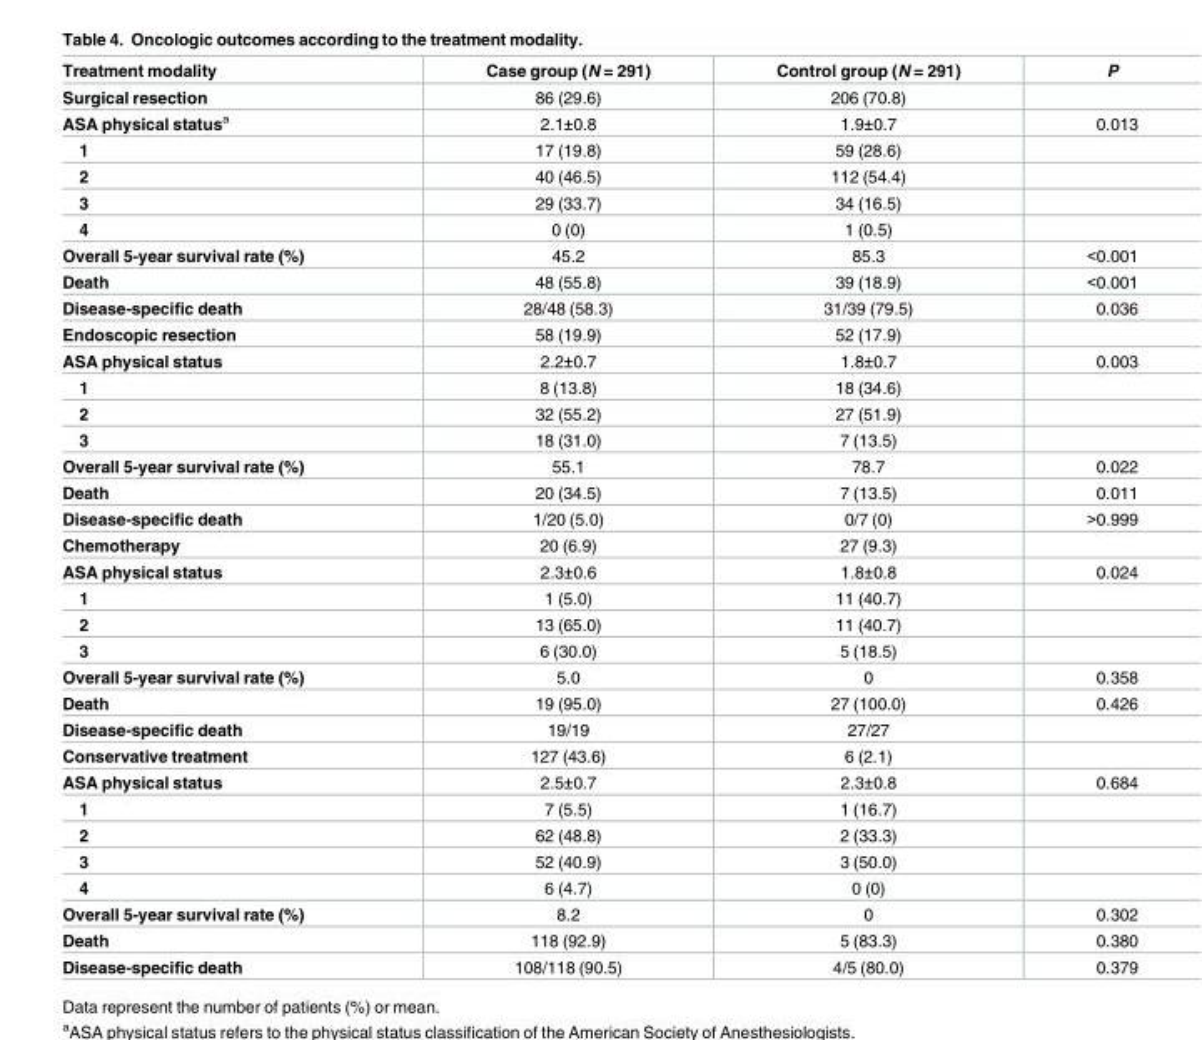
<table><thead><tr><td>Treatment modality</td><td>Case group (N = 291)</td><td>Control group (N = 291)</td><td>P</td></tr></thead><tbody><tr><td>Surgical resection</td><td>86 (29.6)</td><td>206 (70.8)</td><td></td></tr><tr><td>ASA physical status<sup>a</sup></td><td>2.1±0.8</td><td>1.9±0.7</td><td>0.013</td></tr><tr><td>1</td><td>17 (19.8)</td><td>59 (28.6)</td><td></td></tr><tr><td>2</td><td>40 (46.5)</td><td>112 (54.4)</td><td></td></tr><tr><td>3</td><td>29 (33.7)</td><td>34 (16.5)</td><td></td></tr><tr><td>4</td><td>0 (0)</td><td>1 (0.5)</td><td></td></tr><tr><td>Overall 5-year survival rate (%)</td><td>45.2</td><td>85.3</td><td>&lt;0.001</td></tr><tr><td>Death</td><td>48 (55.8)</td><td>39 (18.9)</td><td>&lt;0.001</td></tr><tr><td>Disease-specific death</td><td>28/48 (58.3)</td><td>31/39 (79.5)</td><td>0.036</td></tr><tr><td>Endoscopic resection</td><td>58 (19.9)</td><td>52 (17.9)</td><td></td></tr><tr><td>ASA physical status</td><td>2.2±0.7</td><td>1.8±0.7</td><td>0.003</td></tr><tr><td>1</td><td>8 (13.8)</td><td>18 (34.6)</td><td></td></tr><tr><td>2</td><td>32 (55.2)</td><td>27 (51.9)</td><td></td></tr><tr><td>3</td><td>18 (31.0)</td><td>7 (13.5)</td><td></td></tr><tr><td>Overall 5-year survival rate (%)</td><td>55.1</td><td>78.7</td><td>0.022</td></tr><tr><td>Death</td><td>20 (34.5)</td><td>7 (13.5)</td><td>0.011</td></tr><tr><td>Disease-specific death</td><td>1/20 (5.0)</td><td>0/7 (0)</td><td>&gt;0.999</td></tr><tr><td>Chemotherapy</td><td>20 (6.9)</td><td>27 (9.3)</td><td></td></tr><tr><td>ASA physical status</td><td>2.3±0.6</td><td>1.8±0.8</td><td>0.024</td></tr><tr><td>1</td><td>1 (5.0)</td><td>11 (40.7)</td><td></td></tr><tr><td>2</td><td>13 (65.0)</td><td>11 (40.7)</td><td></td></tr><tr><td>3</td><td>6 (30.0)</td><td>5 (18.5)</td><td></td></tr><tr><td>Overall 5-year survival rate (%)</td><td>5.0</td><td>0</td><td>0.358</td></tr><tr><td>Death</td><td>19 (95.0)</td><td>27 (100.0)</td><td>0.426</td></tr><tr><td>Disease-specific death</td><td>19/19</td><td>27/27</td><td></td></tr><tr><td>Conservative treatment</td><td>127 (43.6)</td><td>6 (2.1)</td><td></td></tr><tr><td>ASA physical status</td><td>2.5±0.7</td><td>2.3±0.8</td><td>0.684</td></tr><tr><td>1</td><td>7 (5.5)</td><td>1 (16.7)</td><td></td></tr><tr><td>2</td><td>62 (48.8)</td><td>2 (33.3)</td><td></td></tr><tr><td>3</td><td>52 (40.9)</td><td>3 (50.0)</td><td></td></tr><tr><td>4</td><td>6 (4.7)</td><td>0 (0)</td><td></td></tr><tr><td>Overall 5-year survival rate (%)</td><td>8.2</td><td>0</td><td>0.302</td></tr><tr><td>Death</td><td>118 (92.9)</td><td>5 (83.3)</td><td>0.380</td></tr><tr><td>Disease-specific death</td><td>108/118 (90.5)</td><td>4/5 (80.0)</td><td>0.379</td></tr></tbody></table>